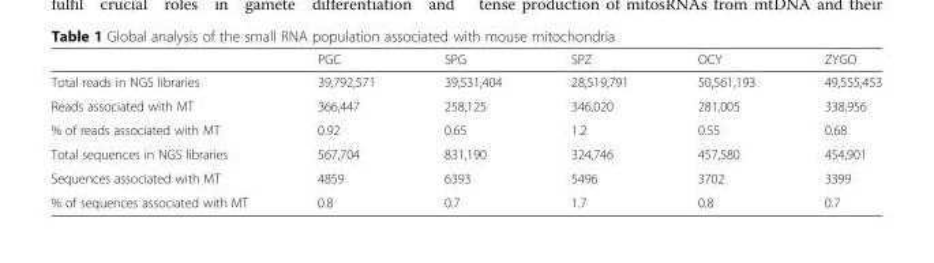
<table><thead><tr><td></td><td>PGC</td><td>SPG</td><td>SPZ</td><td>OCY</td><td>ZYGO</td></tr></thead><tbody><tr><td>Total reads in NGS libraries</td><td>39,792,571</td><td>39,531,404</td><td>28,519,791</td><td>50,561,193</td><td>49,555,453</td></tr><tr><td>Reads associated with MT</td><td>366,447</td><td>258,125</td><td>346,020</td><td>281,005</td><td>338,956</td></tr><tr><td>% of reads associated with MT</td><td>0.92</td><td>0.65</td><td>1.2</td><td>0.55</td><td>0.68</td></tr><tr><td>Total sequences in NGS libraries</td><td>567,704</td><td>831,190</td><td>324,746</td><td>457,580</td><td>454,901</td></tr><tr><td>Sequences associated with MT</td><td>4859</td><td>6393</td><td>5496</td><td>3702</td><td>3399</td></tr><tr><td>% of sequences associated with MT</td><td>0.8</td><td>0.7</td><td>1.7</td><td>0.8</td><td>0.7</td></tr></tbody></table>